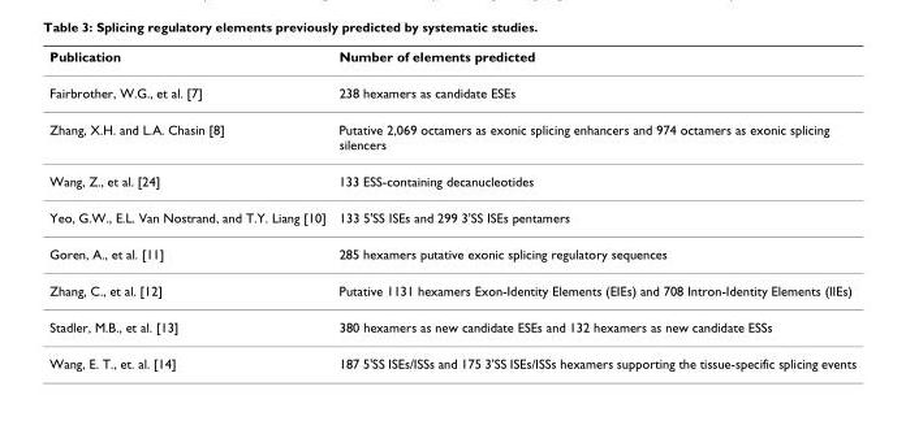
<table><thead><tr><td>Publication</td><td>Number of elements predicted</td></tr></thead><tbody><tr><td>Fairbrother, W.G., et al. [7]</td><td>238 hexamers as candidate ESEs</td></tr><tr><td>Zhang, X.H. and L.A. Chasin [8]</td><td>Putative 2,069 octamers as exonic splicing enhancers and 974 octamers as exonic splicing silencers</td></tr><tr><td>Wang, Z., et al. [24]</td><td>133 ESS-containing decanucleotides</td></tr><tr><td>Yeo, G.W., E.L. Van Nostrand, and T.Y. Liang [10]</td><td>133 5&#x27;SS ISEs and 299 3&#x27;SS ISEs pentamers</td></tr><tr><td>Goren, A., et al. [11]</td><td>285 hexamers putative exonic splicing regulatory sequences</td></tr><tr><td>Zhang, C., et al. [12]</td><td>Putative 1131 hexamers Exon-Identity Elements (EIEs) and 708 Intron-Identity Elements (IIEs)</td></tr><tr><td>Stadler, M.B., et al. [13]</td><td>380 hexamers as new candidate ESEs and 132 hexamers as new candidate ESSs</td></tr><tr><td>Wang, E. T., et. al. [14]</td><td>187 5&#x27;SS ISEs/ISSs and 175 3&#x27;SS ISEs/ISSs hexamers supporting the tissue-specific splicing events</td></tr></tbody></table>